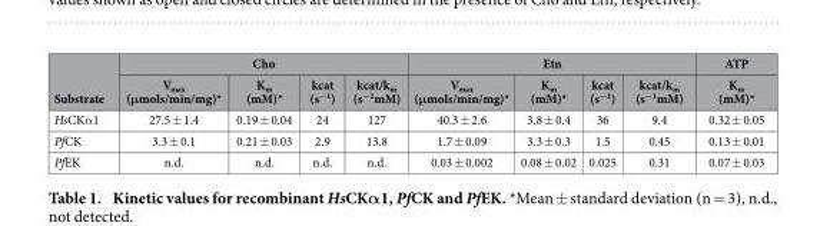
<table><thead><tr><td rowspan="2">Substrate</td><td colspan="4">Cho</td><td colspan="4">Etn</td><td rowspan="2">ATP K<sub>m</sub> (mM)*</td></tr><tr><td>V<sub>max</sub> (μmols/min/mg)*</td><td>K<sub>m</sub> (mM)*</td><td>kcat (s<sup>−1</sup>)</td><td>kcat/k<sub>m</sub> (s<sup>−1</sup>mM)</td><td>V<sub>max</sub> (μmols/min/mg)*</td><td>K<sub>m</sub> (mM)*</td><td>kcat (s<sup>−1</sup>)</td><td>kcat/k<sub>m</sub> (s<sup>−1</sup>mM)</td></tr></thead><tbody><tr><td>HsCKα 1</td><td>27.5 ± 1.4</td><td>0.19 ± 0.04</td><td>24</td><td>127</td><td>40.3 ± 2.6</td><td>3.8 ± 0.4</td><td>36</td><td>9.4</td><td>0.32 ± 0.05</td></tr><tr><td>PfCK</td><td>3.3 ± 0.1</td><td>0.21 ± 0.03</td><td>2.9</td><td>13.8</td><td>1.7 ± 0.09</td><td>3.3 ± 0.3</td><td>1.5</td><td>0.45</td><td>0.13 ± 0.01</td></tr><tr><td>PfEK</td><td>n.d.</td><td>n.d.</td><td>n.d.</td><td>n.d.</td><td>0.03 ± 0.002</td><td>0.08 ± 0.02</td><td>0.025</td><td>0.31</td><td>0.07 ± 0.03</td></tr></tbody></table>